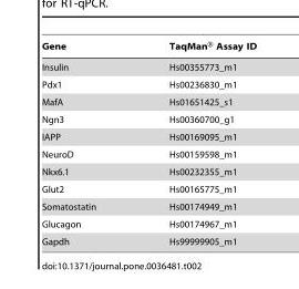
<table><thead><tr><td>Gene</td><td>TaqMan® Assay ID</td></tr></thead><tbody><tr><td>Insulin</td><td>Hs00355773_m1</td></tr><tr><td>Pdx1</td><td>Hs00236830_m1</td></tr><tr><td>MafA</td><td>Hs01651425_s1</td></tr><tr><td>Ngn3</td><td>Hs00360700_g1</td></tr><tr><td>IAPP</td><td>Hs00169095_m1</td></tr><tr><td>NeuroD</td><td>Hs00159598_m1</td></tr><tr><td>Nkx6.1</td><td>Hs00232355_m1</td></tr><tr><td>Glut2</td><td>Hs00165775_m1</td></tr><tr><td>Somatostatin</td><td>Hs00174949_m1</td></tr><tr><td>Glucagon</td><td>Hs00174967_m1</td></tr><tr><td>Gapdh</td><td>Hs99999905_m1</td></tr></tbody></table>